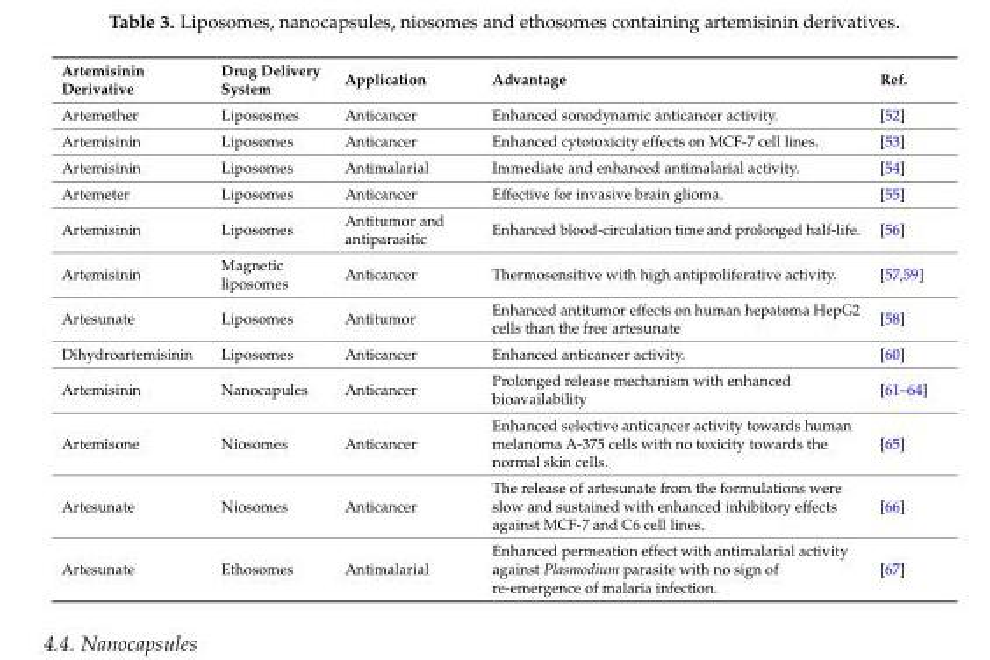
<table><thead><tr><td>Artemisinin Derivative</td><td>Drug Delivery System</td><td>Application</td><td>Advantage</td><td>Ref.</td></tr></thead><tbody><tr><td>Artemether</td><td>Lipososmes</td><td>Anticancer</td><td>Enhanced sonodynamic anticancer activity.</td><td>[52]</td></tr><tr><td>Artemisinin</td><td>Liposomes</td><td>Anticancer</td><td>Enhanced cytotoxicity effects on MCF-7 cell lines.</td><td>[53]</td></tr><tr><td>Artemisinin</td><td>Liposomes</td><td>Antimalarial</td><td>Immediate and enhanced antimalarial activity.</td><td>[54]</td></tr><tr><td>Artemeter</td><td>Liposomes</td><td>Anticancer</td><td>Effective for invasive brain glioma.</td><td>[55]</td></tr><tr><td>Artemisinin</td><td>Liposomes</td><td>Antitumor and antiparasitic</td><td>Enhanced blood-circulation time and prolonged half-life.</td><td>[56]</td></tr><tr><td>Artemisinin</td><td>Magnetic liposomes</td><td>Anticancer</td><td>Thermosensitive with high antiproliferative activity.</td><td>[57,59]</td></tr><tr><td>Artesunate</td><td>Liposomes</td><td>Antitumor</td><td>Enhanced antitumor effects on human hepatoma HepG2 cells than the free artesunate</td><td>[58]</td></tr><tr><td>Dihydroartemisinin</td><td>Liposomes</td><td>Anticancer</td><td>Enhanced anticancer activity.</td><td>[60]</td></tr><tr><td>Artemisinin</td><td>Nanocapules</td><td>Anticancer</td><td>Prolonged release mechanism with enhanced bioavailability</td><td>[61–64]</td></tr><tr><td>Artemisone</td><td>Niosomes</td><td>Anticancer</td><td>Enhanced selective anticancer activity towards human melanoma A-375 cells with no toxicity towards the normal skin cells.</td><td>[65]</td></tr><tr><td>Artesunate</td><td>Niosomes</td><td>Anticancer</td><td>The release of artesunate from the formulations were slow and sustained with enhanced inhibitory effects against MCF-7 and C6 cell lines.</td><td>[66]</td></tr><tr><td>Artesunate</td><td>Ethosomes</td><td>Antimalarial</td><td>Enhanced permeation effect with antimalarial activity against Plasmodium parasite with no sign of re-emergence of malaria infection.</td><td>[67]</td></tr></tbody></table>